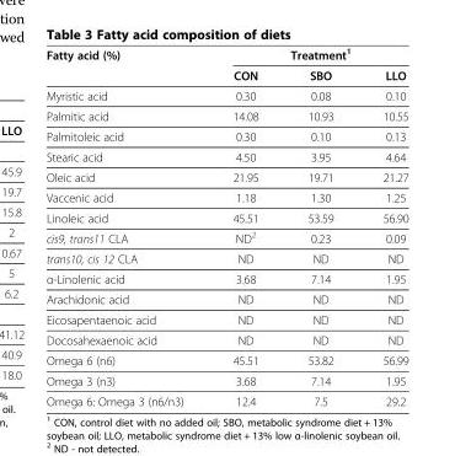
<table><thead><tr><td rowspan="2">Fatty acid (%)</td><td colspan="3">Treatment<sup>1</sup></td></tr><tr><td>CON</td><td>SBO</td><td>LLO</td></tr></thead><tbody><tr><td>Myristic acid</td><td>0.30</td><td>0.08</td><td>0.10</td></tr><tr><td>Palmitic acid</td><td>14.08</td><td>10.93</td><td>10.55</td></tr><tr><td>Palmitoleic acid</td><td>0.30</td><td>0.10</td><td>0.13</td></tr><tr><td>Stearic acid</td><td>4.50</td><td>3.95</td><td>4.64</td></tr><tr><td>Oleic acid</td><td>21.95</td><td>19.71</td><td>21.27</td></tr><tr><td>Vaccenic acid</td><td>1.18</td><td>1.30</td><td>1.25</td></tr><tr><td>Linoleic acid</td><td>45.51</td><td>53.59</td><td>56.90</td></tr><tr><td>cis9, trans11 CLA</td><td>ND<sup>2</sup></td><td>0.23</td><td>0.09</td></tr><tr><td>trans10, cis 12 CLA</td><td>ND</td><td>ND</td><td>ND</td></tr><tr><td>α-Linolenic acid</td><td>3.68</td><td>7.14</td><td>1.95</td></tr><tr><td>Arachidonic acid</td><td>ND</td><td>ND</td><td>ND</td></tr><tr><td>Eicosapentaenoic acid</td><td>ND</td><td>ND</td><td>ND</td></tr><tr><td>Docosahexaenoic acid</td><td>ND</td><td>ND</td><td>ND</td></tr><tr><td>Omega 6 (n6)</td><td>45.51</td><td>53.82</td><td>56.99</td></tr><tr><td>Omega 3 (n3)</td><td>3.68</td><td>7.14</td><td>1.95</td></tr><tr><td>Omega 6: Omega 3 (n6/n3)</td><td>12.4</td><td>7.5</td><td>29.2</td></tr></tbody></table>